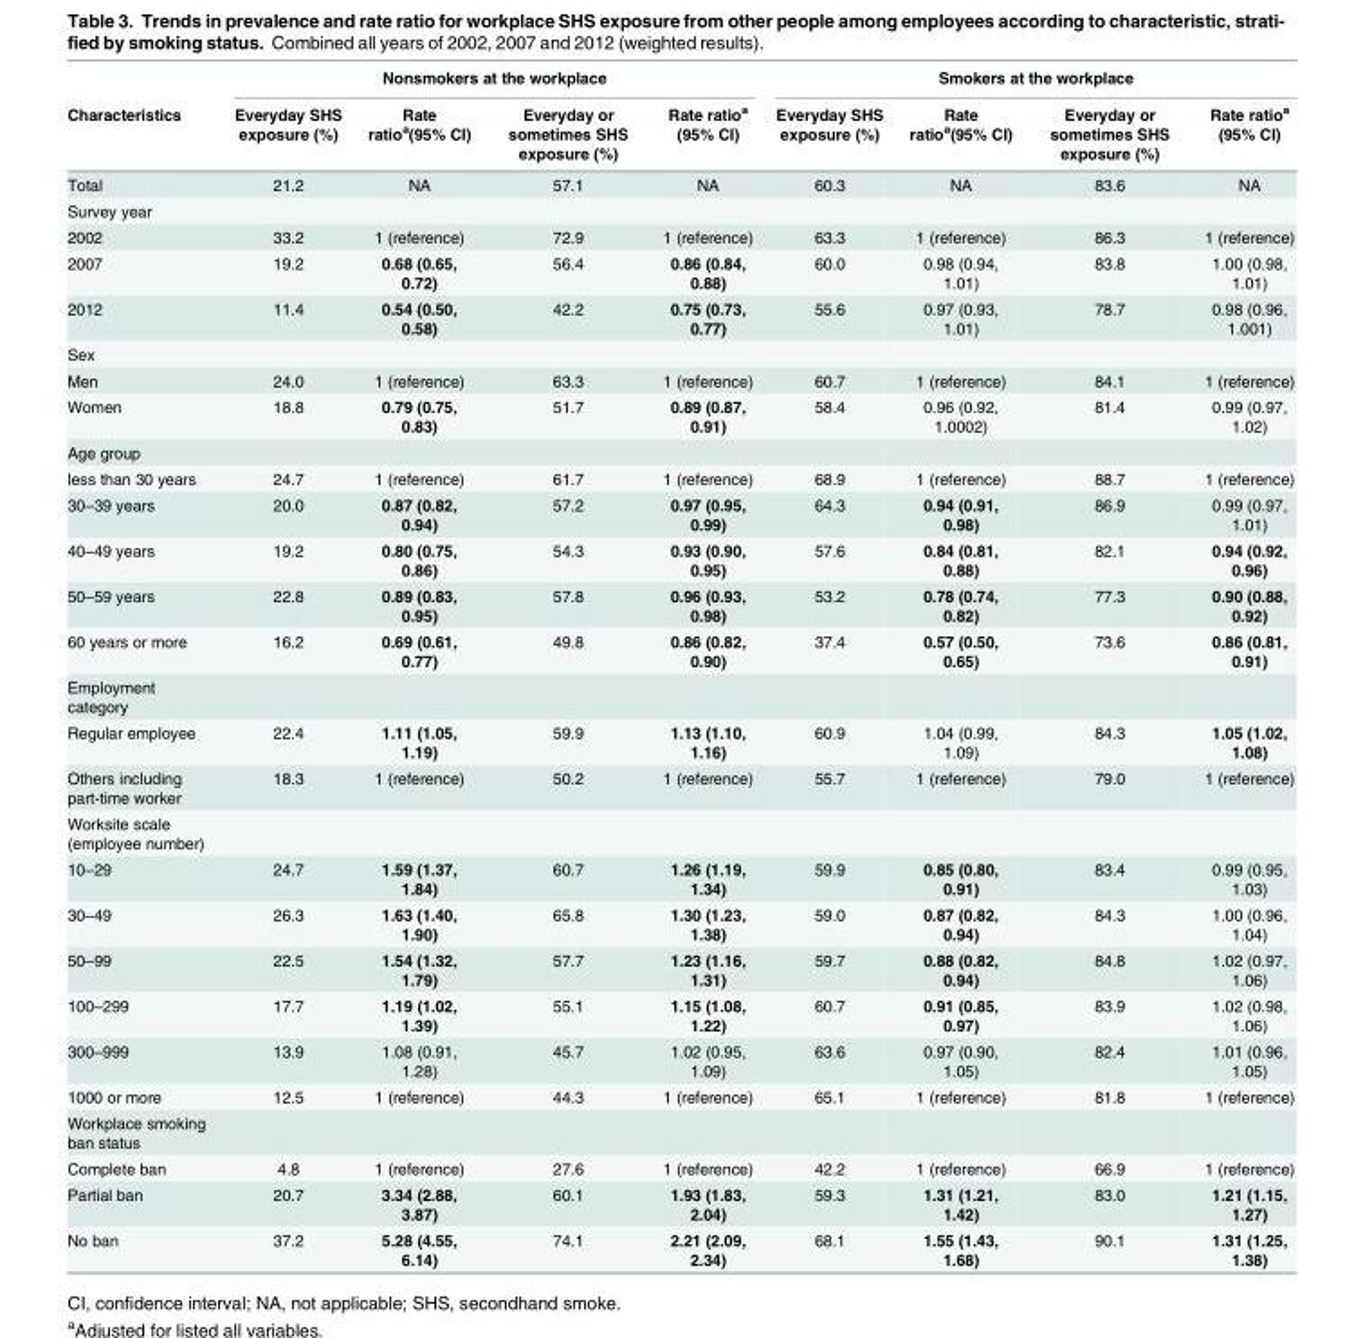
<table><thead><tr><td rowspan="2">Characteristics</td><td colspan="4">Nonsmokers at the workplace</td><td colspan="4">Smokers at the workplace</td></tr><tr><td>Everyday SHS exposure (%)</td><td>Rate ratio<sup>a</sup>(95% CI)</td><td>Everyday or sometimes SHS exposure (%)</td><td>Rate ratio<sup>a</sup> (95% CI)</td><td>Everyday SHS exposure (%)</td><td>Rate ratio<sup>a</sup>(95% CI)</td><td>Everyday or sometimes SHS exposure (%)</td><td>Rate ratio<sup>a</sup> (95% CI)</td></tr></thead><tbody><tr><td>Total</td><td>21.2</td><td>NA</td><td>57.1</td><td>NA</td><td>60.3</td><td>NA</td><td>83.6</td><td>NA</td></tr><tr><td colspan="9">Survey year</td></tr><tr><td>2002</td><td>33.2</td><td>1 (reference)</td><td>72.9</td><td>1 (reference)</td><td>63.3</td><td>1 (reference)</td><td>86.3</td><td>1 (reference)</td></tr><tr><td>2007</td><td>19.2</td><td>0.68 (0.65, 0.72)</td><td>56.4</td><td>0.86 (0.84, 0.88)</td><td>60.0</td><td>0.98 (0.94, 1.01)</td><td>83.8</td><td>1.00 (0.98, 1.01)</td></tr><tr><td>2012</td><td>11.4</td><td>0.54 (0.50, 0.58)</td><td>42.2</td><td>0.75 (0.73, 0.77)</td><td>55.6</td><td>0.97 (0.93, 1.01)</td><td>78.7</td><td>0.98 (0.96, 1.001)</td></tr><tr><td colspan="9">Sex</td></tr><tr><td>Men</td><td>24.0</td><td>1 (reference)</td><td>63.3</td><td>1 (reference)</td><td>60.7</td><td>1 (reference)</td><td>84.1</td><td>1 (reference)</td></tr><tr><td>Women</td><td>18.8</td><td>0.79 (0.75, 0.83)</td><td>51.7</td><td>0.89 (0.87, 0.91)</td><td>58.4</td><td>0.96 (0.92, 1.0002)</td><td>81.4</td><td>0.99 (0.97, 1.02)</td></tr><tr><td colspan="9">Age group</td></tr><tr><td>less than 30 years</td><td>24.7</td><td>1 (reference)</td><td>61.7</td><td>1 (reference)</td><td>68.9</td><td>1 (reference)</td><td>88.7</td><td>1 (reference)</td></tr><tr><td>30–39 years</td><td>20.0</td><td>0.87 (0.82, 0.94)</td><td>57.2</td><td>0.97 (0.95, 0.99)</td><td>64.3</td><td>0.94 (0.91, 0.98)</td><td>86.9</td><td>0.99 (0.97, 1.01)</td></tr><tr><td>40–49 years</td><td>19.2</td><td>0.80 (0.75, 0.86)</td><td>54.3</td><td>0.93 (0.90, 0.95)</td><td>57.6</td><td>0.84 (0.81, 0.88)</td><td>82.1</td><td>0.94 (0.92, 0.96)</td></tr><tr><td>50–59 years</td><td>22.8</td><td>0.89 (0.83, 0.95)</td><td>57.8</td><td>0.96 (0.93, 0.98)</td><td>53.2</td><td>0.78 (0.74, 0.82)</td><td>77.3</td><td>0.90 (0.88, 0.92)</td></tr><tr><td>60 years or more</td><td>16.2</td><td>0.69 (0.61, 0.77)</td><td>49.8</td><td>0.86 (0.82, 0.90)</td><td>37.4</td><td>0.57 (0.50, 0.65)</td><td>73.6</td><td>0.86 (0.81, 0.91)</td></tr><tr><td colspan="9">Employment category</td></tr><tr><td>Regular employee</td><td>22.4</td><td>1.11 (1.05, 1.19)</td><td>59.9</td><td>1.13 (1.10, 1.16)</td><td>60.9</td><td>1.04 (0.99, 1.09)</td><td>84.3</td><td>1.05 (1.02, 1.08)</td></tr><tr><td>Others including part-time worker</td><td>18.3</td><td>1 (reference)</td><td>50.2</td><td>1 (reference)</td><td>55.7</td><td>1 (reference)</td><td>79.0</td><td>1 (reference)</td></tr><tr><td colspan="9">Worksite scale (employee number)</td></tr><tr><td>10–29</td><td>24.7</td><td>1.59 (1.37, 1.84)</td><td>60.7</td><td>1.26 (1.19, 1.34)</td><td>59.9</td><td>0.85 (0.80, 0.91)</td><td>83.4</td><td>0.99 (0.95, 1.03)</td></tr><tr><td>30–49</td><td>26.3</td><td>1.63 (1.40, 1.90)</td><td>65.8</td><td>1.30 (1.23, 1.38)</td><td>59.0</td><td>0.87 (0.82, 0.94)</td><td>84.3</td><td>1.00 (0.96, 1.04)</td></tr><tr><td>50–99</td><td>22.5</td><td>1.54 (1.32, 1.79)</td><td>57.7</td><td>1.23 (1.16, 1.31)</td><td>59.7</td><td>0.88 (0.82, 0.94)</td><td>84.8</td><td>1.02 (0.97, 1.06)</td></tr><tr><td>100–299</td><td>17.7</td><td>1.19 (1.02, 1.39)</td><td>55.1</td><td>1.15 (1.08, 1.22)</td><td>60.7</td><td>0.91 (0.85, 0.97)</td><td>83.9</td><td>1.02 (0.98, 1.06)</td></tr><tr><td>300–999</td><td>13.9</td><td>1.08 (0.91, 1.28)</td><td>45.7</td><td>1.02 (0.95, 1.09)</td><td>63.6</td><td>0.97 (0.90, 1.05)</td><td>82.4</td><td>1.01 (0.96, 1.05)</td></tr><tr><td>1000 or more</td><td>12.5</td><td>1 (reference)</td><td>44.3</td><td>1 (reference)</td><td>65.1</td><td>1 (reference)</td><td>81.8</td><td>1 (reference)</td></tr><tr><td colspan="9">Workplace smoking ban status</td></tr><tr><td>Complete ban</td><td>4.8</td><td>1 (reference)</td><td>27.6</td><td>1 (reference)</td><td>42.2</td><td>1 (reference)</td><td>66.9</td><td>1 (reference)</td></tr><tr><td>Partial ban</td><td>20.7</td><td>3.34 (2.88, 3.87)</td><td>60.1</td><td>1.93 (1.83, 2.04)</td><td>59.3</td><td>1.31 (1.21, 1.42)</td><td>83.0</td><td>1.21 (1.15, 1.27)</td></tr><tr><td>No ban</td><td>37.2</td><td>5.28 (4.55, 6.14)</td><td>74.1</td><td>2.21 (2.09, 2.34)</td><td>68.1</td><td>1.55 (1.43, 1.68)</td><td>90.1</td><td>1.31 (1.25, 1.38)</td></tr></tbody></table>